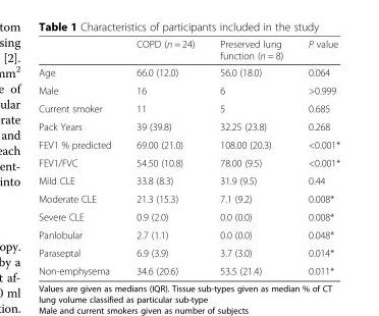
<table><thead><tr><td></td><td>COPD (n = 24)</td><td>Preserved lung function (n = 8)</td><td>P value</td></tr></thead><tbody><tr><td>Age</td><td>66.0 (12.0)</td><td>56.0 (18.0)</td><td>0.064</td></tr><tr><td>Male</td><td>16</td><td>6</td><td>&gt;0.999</td></tr><tr><td>Current smoker</td><td>11</td><td>5</td><td>0.685</td></tr><tr><td>Pack Years</td><td>39 (39.8)</td><td>32.25 (23.8)</td><td>0.268</td></tr><tr><td>FEV1 % predicted</td><td>69.00 (21.0)</td><td>108.00 (20.3)</td><td>&lt;0.001*</td></tr><tr><td>FEV1/FVC</td><td>54.50 (10.8)</td><td>78.00 (9.5)</td><td>&lt;0.001*</td></tr><tr><td>Mild CLE</td><td>33.8 (8.3)</td><td>31.9 (9.5)</td><td>0.44</td></tr><tr><td>Moderate CLE</td><td>21.3 (15.3)</td><td>7.1 (9.2)</td><td>0.008*</td></tr><tr><td>Severe CLE</td><td>0.9 (2.0)</td><td>0.0 (0.0)</td><td>0.008*</td></tr><tr><td>Panlobular</td><td>2.7 (1.1)</td><td>0.0 (0.0)</td><td>0.048*</td></tr><tr><td>Paraseptal</td><td>6.9 (3.9)</td><td>3.7 (3.0)</td><td>0.014*</td></tr><tr><td>Non-emphysema</td><td>34.6 (20.6)</td><td>53.5 (21.4)</td><td>0.011*</td></tr></tbody></table>